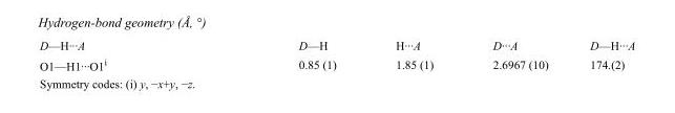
<table><tbody><tr><td>D—H···A</td><td>D—H</td><td>H···A</td><td>D···A</td><td>D—H···A</td></tr><tr><td>O1—H1···O1<sup>i</sup></td><td>0.85 (1)</td><td>1.85 (1)</td><td>2.6967 (10)</td><td>174.(2)</td></tr></tbody></table>